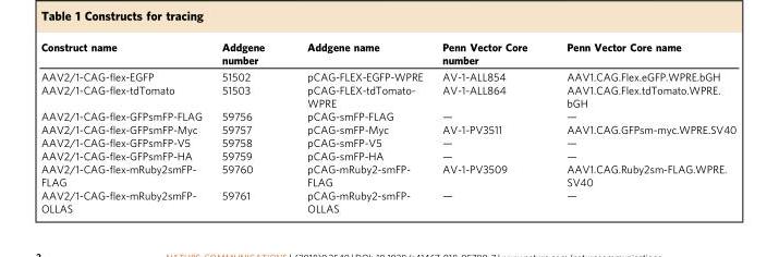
<table><thead><tr><td>Construct name</td><td>Addgene number</td><td>Addgene name</td><td>Penn Vector Core number</td><td>Penn Vector Core name</td></tr></thead><tbody><tr><td>AAV2/1-CAG-flex-EGFP</td><td>51502</td><td>pCAG-FLEX-EGFP-WPRE</td><td>AV-1-ALL854</td><td>AAV1.CAG.Flex.eGFP.WPRE.bGH</td></tr><tr><td>AAV2/1-CAG-flex-tdTomato</td><td>51503</td><td>pCAG-FLEX-tdTomato- WPRE</td><td>AV-1-ALL864</td><td>AAV1.CAG.Flex.tdTomato.WPRE. bGH</td></tr><tr><td>AAV2/1-CAG-flex-GFPsmFP-FLAG</td><td>59756</td><td>pCAG-smFP-FLAG</td><td>—</td><td>—</td></tr><tr><td>AAV2/1-CAG-flex-GFPsmFP-Myc</td><td>59757</td><td>pCAG-smFP-Myc</td><td>AV-1-PV3511</td><td>AAV1.CAG.GFPsm-myc.WPRE.SV40</td></tr><tr><td>AAV2/1-CAG-flex-GFPsmFP-V5</td><td>59758</td><td>pCAG-smFP-V5</td><td>—</td><td>—</td></tr><tr><td>AAV2/1-CAG-flex-GFPsmFP-HA</td><td>59759</td><td>pCAG-smFP-HA</td><td>—</td><td>—</td></tr><tr><td>AAV2/1-CAG-flex-mRuby2smFP- FLAG</td><td>59760</td><td>pCAG-mRuby2-smFP- FLAG</td><td>AV-1-PV3509</td><td>AAV1.CAG.Ruby2sm-FLAG.WPRE. SV40</td></tr><tr><td>AAV2/1-CAG-flex-mRuby2smFP- OLLAS</td><td>59761</td><td>pCAG-mRuby2-smFP- OLLAS</td><td>—</td><td>—</td></tr></tbody></table>